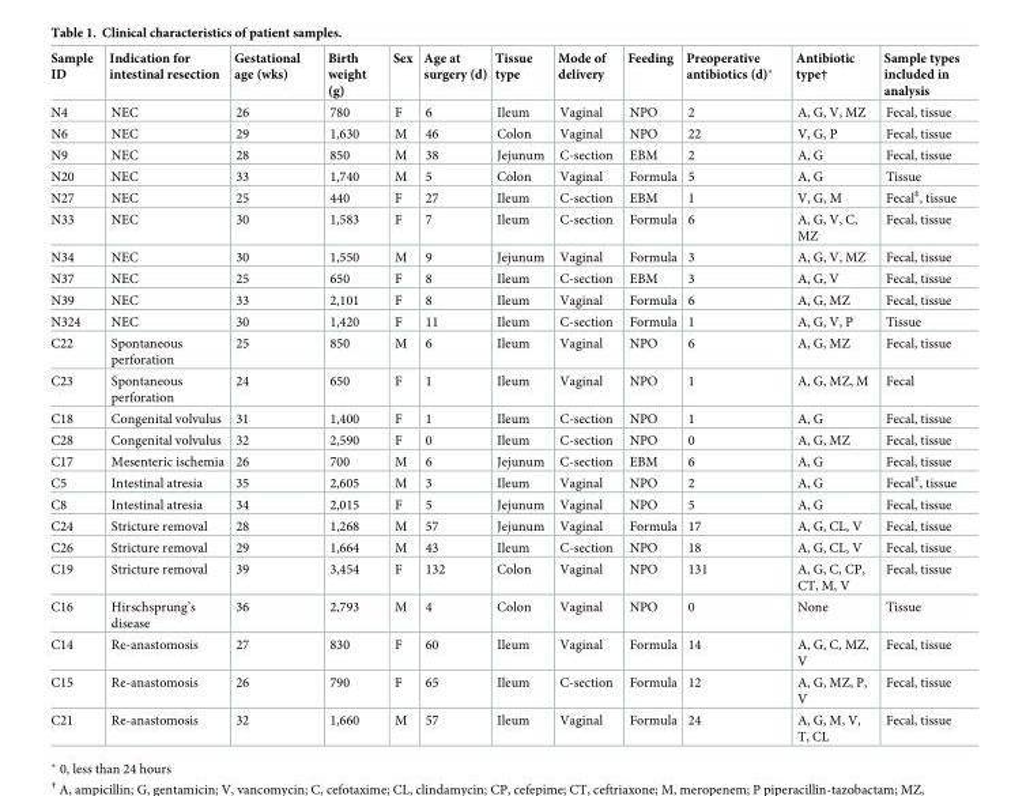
<table><thead><tr><td>Sample ID</td><td>Indication for intestinal resection</td><td>Gestational age (wks)</td><td>Birth weight (g)</td><td>Sex</td><td>Age at surgery (d)</td><td>Tissue type</td><td>Mode of delivery</td><td>Feeding</td><td>Preoperative antibiotics (d)*</td><td>Antibiotic type†</td><td>Sample types included in analysis</td></tr></thead><tbody><tr><td>N4</td><td>NEC</td><td>26</td><td>780</td><td>F</td><td>6</td><td>Ileum</td><td>Vaginal</td><td>NPO</td><td>2</td><td>A, G, V, MZ</td><td>Fecal, tissue</td></tr><tr><td>N6</td><td>NEC</td><td>29</td><td>1,630</td><td>M</td><td>46</td><td>Colon</td><td>Vaginal</td><td>NPO</td><td>22</td><td>V, G, P</td><td>Fecal, tissue</td></tr><tr><td>N9</td><td>NEC</td><td>28</td><td>850</td><td>M</td><td>38</td><td>Jejunum</td><td>C-section</td><td>EBM</td><td>2</td><td>A, G</td><td>Fecal, tissue</td></tr><tr><td>N20</td><td>NEC</td><td>33</td><td>1,740</td><td>M</td><td>5</td><td>Colon</td><td>Vaginal</td><td>Formula</td><td>5</td><td>A, G</td><td>Tissue</td></tr><tr><td>N27</td><td>NEC</td><td>25</td><td>440</td><td>F</td><td>27</td><td>Ileum</td><td>C-section</td><td>EBM</td><td>1</td><td>V, G, M</td><td>Fecal<sup>‡</sup>, tissue</td></tr><tr><td>N33</td><td>NEC</td><td>30</td><td>1,583</td><td>F</td><td>7</td><td>Ileum</td><td>C-section</td><td>Formula</td><td>6</td><td>A, G, V, C, MZ</td><td>Fecal, tissue</td></tr><tr><td>N34</td><td>NEC</td><td>30</td><td>1,550</td><td>M</td><td>9</td><td>Jejunum</td><td>Vaginal</td><td>Formula</td><td>3</td><td>A, G, V, MZ</td><td>Fecal, tissue</td></tr><tr><td>N37</td><td>NEC</td><td>25</td><td>650</td><td>F</td><td>8</td><td>Ileum</td><td>C-section</td><td>EBM</td><td>3</td><td>A, G, V</td><td>Fecal, tissue</td></tr><tr><td>N39</td><td>NEC</td><td>33</td><td>2,101</td><td>F</td><td>8</td><td>Ileum</td><td>Vaginal</td><td>Formula</td><td>6</td><td>A, G, MZ</td><td>Fecal, tissue</td></tr><tr><td>N324</td><td>NEC</td><td>30</td><td>1,420</td><td>F</td><td>11</td><td>Ileum</td><td>C-section</td><td>Formula</td><td>1</td><td>A, G, V, P</td><td>Tissue</td></tr><tr><td>C22</td><td>Spontaneous perforation</td><td>25</td><td>850</td><td>M</td><td>6</td><td>Ileum</td><td>Vaginal</td><td>NPO</td><td>6</td><td>A, G, MZ</td><td>Fecal, tissue</td></tr><tr><td>C23</td><td>Spontaneous perforation</td><td>24</td><td>650</td><td>F</td><td>1</td><td>Ileum</td><td>Vaginal</td><td>NPO</td><td>1</td><td>A, G, MZ, M</td><td>Fecal</td></tr><tr><td>C18</td><td>Congenital volvulus</td><td>31</td><td>1,400</td><td>F</td><td>1</td><td>Ileum</td><td>C-section</td><td>NPO</td><td>1</td><td>A, G</td><td>Fecal, tissue</td></tr><tr><td>C28</td><td>Congenital volvulus</td><td>32</td><td>2,590</td><td>F</td><td>0</td><td>Ileum</td><td>C-section</td><td>NPO</td><td>0</td><td>A, G, MZ</td><td>Fecal, tissue</td></tr><tr><td>C17</td><td>Mesenteric ischemia</td><td>26</td><td>700</td><td>M</td><td>6</td><td>Jejunum</td><td>C-section</td><td>EBM</td><td>6</td><td>A, G</td><td>Fecal, tissue</td></tr><tr><td>C5</td><td>Intestinal atresia</td><td>35</td><td>2,605</td><td>M</td><td>3</td><td>Ileum</td><td>Vaginal</td><td>NPO</td><td>2</td><td>A, G</td><td>Fecal<sup>‡</sup>, tissue</td></tr><tr><td>C8</td><td>Intestinal atresia</td><td>34</td><td>2,015</td><td>F</td><td>5</td><td>Jejunum</td><td>Vaginal</td><td>NPO</td><td>5</td><td>A, G</td><td>Fecal, tissue</td></tr><tr><td>C24</td><td>Stricture removal</td><td>28</td><td>1,268</td><td>M</td><td>57</td><td>Jejunum</td><td>Vaginal</td><td>Formula</td><td>17</td><td>A, G, CL, V</td><td>Fecal, tissue</td></tr><tr><td>C26</td><td>Stricture removal</td><td>29</td><td>1,664</td><td>M</td><td>43</td><td>Ileum</td><td>C-section</td><td>NPO</td><td>18</td><td>A, G, CL, V</td><td>Fecal, tissue</td></tr><tr><td>C19</td><td>Stricture removal</td><td>39</td><td>3,454</td><td>F</td><td>132</td><td>Colon</td><td>Vaginal</td><td>NPO</td><td>131</td><td>A, G, C, CP, CT, M, V</td><td>Fecal, tissue</td></tr><tr><td>C16</td><td>Hirschsprung’s disease</td><td>36</td><td>2,793</td><td>M</td><td>4</td><td>Colon</td><td>Vaginal</td><td>NPO</td><td>0</td><td>None</td><td>Tissue</td></tr><tr><td>C14</td><td>Re-anastomosis</td><td>27</td><td>830</td><td>F</td><td>60</td><td>Ileum</td><td>Vaginal</td><td>Formula</td><td>14</td><td>A, G, C, MZ, V</td><td>Fecal, tissue</td></tr><tr><td>C15</td><td>Re-anastomosis</td><td>26</td><td>790</td><td>F</td><td>65</td><td>Ileum</td><td>C-section</td><td>Formula</td><td>12</td><td>A, G, MZ, P, V</td><td>Fecal, tissue</td></tr><tr><td>C21</td><td>Re-anastomosis</td><td>32</td><td>1,660</td><td>M</td><td>57</td><td>Ileum</td><td>Vaginal</td><td>Formula</td><td>24</td><td>A, G, M, V, T, CL</td><td>Fecal, tissue</td></tr></tbody></table>